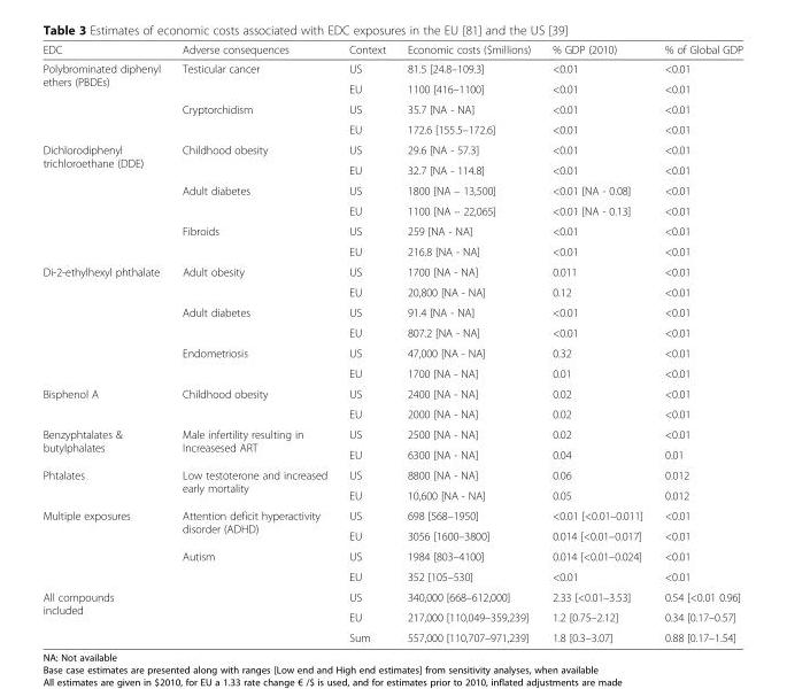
<table><thead><tr><td>EDC</td><td>Adverse consequences</td><td>Context</td><td>Economic costs ($millions)</td><td>% GDP (2010)</td><td>% of Global GDP</td></tr></thead><tbody><tr><td rowspan="4">Polybrominated diphenyl ethers (PBDEs)</td><td rowspan="2">Testicular cancer</td><td>US</td><td>81.5 [24.8–109.3]</td><td>&lt;0.01</td><td>&lt;0.01</td></tr><tr><td>EU</td><td>1100 [416–1100]</td><td>&lt;0.01</td><td>&lt;0.01</td></tr><tr><td rowspan="2">Cryptorchidism</td><td>US</td><td>35.7 [NA - NA]</td><td>&lt;0.01</td><td>&lt;0.01</td></tr><tr><td>EU</td><td>172.6 [155.5–172.6]</td><td>&lt;0.01</td><td>&lt;0.01</td></tr><tr><td rowspan="6">Dichlorodiphenyl trichloroethane (DDE)</td><td rowspan="2">Childhood obesity</td><td>US</td><td>29.6 [NA - 57.3]</td><td>&lt;0.01</td><td>&lt;0.01</td></tr><tr><td>EU</td><td>32.7 [NA - 114.8]</td><td>&lt;0.01</td><td>&lt;0.01</td></tr><tr><td rowspan="2">Adult diabetes</td><td>US</td><td>1800 [NA – 13,500]</td><td>&lt;0.01 [NA - 0.08]</td><td>&lt;0.01</td></tr><tr><td>EU</td><td>1100 [NA – 22,065]</td><td>&lt;0.01 [NA - 0.13]</td><td>&lt;0.01</td></tr><tr><td rowspan="2">Fibroids</td><td>US</td><td>259 [NA - NA]</td><td>&lt;0.01</td><td>&lt;0.01</td></tr><tr><td>EU</td><td>216.8 [NA - NA]</td><td>&lt;0.01</td><td>&lt;0.01</td></tr><tr><td rowspan="6">Di-2-ethylhexyl phthalate</td><td rowspan="2">Adult obesity</td><td>US</td><td>1700 [NA - NA]</td><td>0.011</td><td>&lt;0.01</td></tr><tr><td>EU</td><td>20,800 [NA - NA]</td><td>0.12</td><td>&lt;0.01</td></tr><tr><td rowspan="2">Adult diabetes</td><td>US</td><td>91.4 [NA - NA]</td><td>&lt;0.01</td><td>&lt;0.01</td></tr><tr><td>EU</td><td>807.2 [NA - NA]</td><td>&lt;0.01</td><td>&lt;0.01</td></tr><tr><td rowspan="2">Endometriosis</td><td>US</td><td>47,000 [NA - NA]</td><td>0.32</td><td>&lt;0.01</td></tr><tr><td>EU</td><td>1700 [NA - NA]</td><td>0.01</td><td>&lt;0.01</td></tr><tr><td rowspan="2">Bisphenol A</td><td rowspan="2">Childhood obesity</td><td>US</td><td>2400 [NA - NA]</td><td>0.02</td><td>&lt;0.01</td></tr><tr><td>EU</td><td>2000 [NA - NA]</td><td>0.02</td><td>&lt;0.01</td></tr><tr><td rowspan="2">Benzyphtalates &amp; butylphalates</td><td rowspan="2">Male infertility resulting in Increasesed ART</td><td>US</td><td>2500 [NA - NA]</td><td>0.02</td><td>&lt;0.01</td></tr><tr><td>EU</td><td>6300 [NA - NA]</td><td>0.04</td><td>0.01</td></tr><tr><td rowspan="2">Phtalates</td><td rowspan="2">Low testoterone and increased early mortality</td><td>US</td><td>8800 [NA - NA]</td><td>0.06</td><td>0.012</td></tr><tr><td>EU</td><td>10,600 [NA - NA]</td><td>0.05</td><td>0.012</td></tr><tr><td rowspan="4">Multiple exposures</td><td rowspan="2">Attention deficit hyperactivity disorder (ADHD)</td><td>US</td><td>698 [568–1950]</td><td>&lt;0.01 [&lt;0.01–0.011]</td><td>&lt;0.01</td></tr><tr><td>EU</td><td>3056 [1600–3800]</td><td>0.014 [&lt;0.01–0.017]</td><td>&lt;0.01</td></tr><tr><td rowspan="2">Autism</td><td>US</td><td>1984 [803–4100]</td><td>0.014 [&lt;0.01–0.024]</td><td>&lt;0.01</td></tr><tr><td>EU</td><td>352 [105–530]</td><td>&lt;0.01</td><td>&lt;0.01</td></tr><tr><td rowspan="3">All compounds included</td><td></td><td>US</td><td>340,000 [668–612,000]</td><td>2.33 [&lt;0.01–3.53]</td><td>0.54 [&lt;0.01 0.96]</td></tr><tr><td></td><td>EU</td><td>217,000 [110,049–359,239]</td><td>1.2 [0.75–2.12]</td><td>0.34 [0.17–0.57]</td></tr><tr><td></td><td>Sum</td><td>557,000 [110,707–971,239]</td><td>1.8 [0.3–3.07]</td><td>0.88 [0.17–1.54]</td></tr></tbody></table>